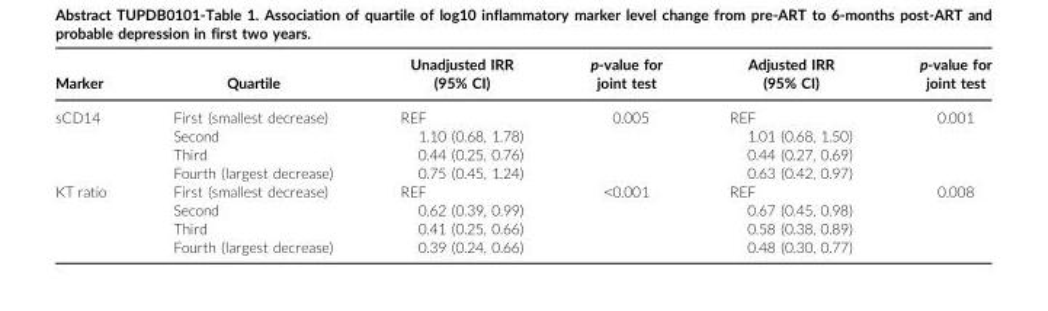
<table><thead><tr><td>Marker</td><td>Quartile</td><td>Unadjusted IRR (95% CI)</td><td>p-value for joint test</td><td>Adjusted IRR (95% CI)</td><td>p-value for joint test</td></tr></thead><tbody><tr><td rowspan="4">sCD14</td><td>First (smallest decrease)</td><td>REF</td><td rowspan="4">0.005</td><td>REF</td><td rowspan="4">0.001</td></tr><tr><td>Second</td><td>1.10 (0.68, 1.78)</td><td>1.01 (0.68, 1.50)</td></tr><tr><td>Third</td><td>0.44 (0.25, 0.76)</td><td>0.44 (0.27, 0.69)</td></tr><tr><td>Fourth (largest decrease)</td><td>0.75 (0.45, 1.24)</td><td>0.63 (0.42, 0.97)</td></tr><tr><td rowspan="4">KT ratio</td><td>First (smallest decrease)</td><td>REF</td><td rowspan="4">&lt;0.001</td><td>REF</td><td rowspan="4">0.008</td></tr><tr><td>Second</td><td>0.62 (0.39, 0.99)</td><td>0.67 (0.45, 0.98)</td></tr><tr><td>Third</td><td>0.41 (0.25, 0.66)</td><td>0.58 (0.38, 0.89)</td></tr><tr><td>Fourth (largest decrease)</td><td>0.39 (0.24, 0.66)</td><td>0.48 (0.30, 0.77)</td></tr></tbody></table>